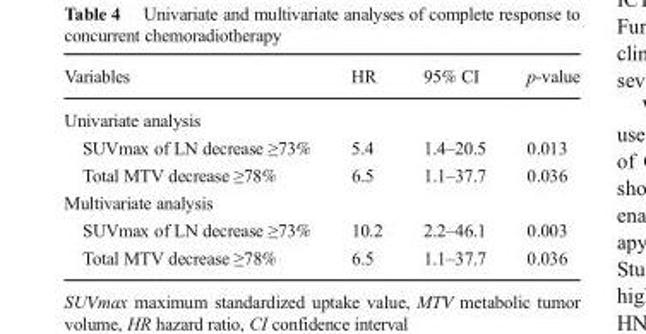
<table><thead><tr><td>Variables</td><td>HR</td><td>95% CI</td><td>p-value</td></tr></thead><tbody><tr><td colspan="4">Univariate analysis</td></tr><tr><td>SUVmax of LN decrease ≥73%</td><td>5.4</td><td>1.4–20.5</td><td>0.013</td></tr><tr><td>Total MTV decrease ≥78%</td><td>6.5</td><td>1.1–37.7</td><td>0.036</td></tr><tr><td colspan="4">Multivariate analysis</td></tr><tr><td>SUVmax of LN decrease ≥73%</td><td>10.2</td><td>2.2–46.1</td><td>0.003</td></tr><tr><td>Total MTV decrease ≥78%</td><td>6.5</td><td>1.1–37.7</td><td>0.036</td></tr></tbody></table>